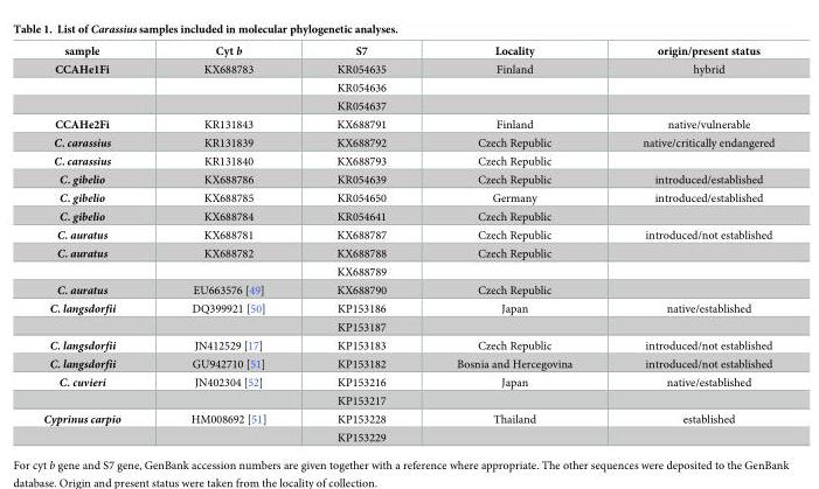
<table><thead><tr><td>sample</td><td>Cyt b</td><td>S7</td><td>Locality</td><td>origin/present status</td></tr></thead><tbody><tr><td rowspan="3">CCAHe1Fi</td><td>KX688783</td><td>KR054635</td><td>Finland</td><td>hybrid</td></tr><tr><td></td><td>KR054636</td><td></td><td></td></tr><tr><td></td><td>KR054637</td><td></td><td></td></tr><tr><td>CCAHe2Fi</td><td>KR131843</td><td>KX688791</td><td>Finland</td><td>native/vulnerable</td></tr><tr><td>C. carassius</td><td>KR131839</td><td>KX688792</td><td>Czech Republic</td><td>native/critically endangered</td></tr><tr><td>C. carassius</td><td>KR131840</td><td>KX688793</td><td>Czech Republic</td><td></td></tr><tr><td>C. gibelio</td><td>KX688786</td><td>KR054639</td><td>Czech Republic</td><td>introduced/established</td></tr><tr><td>C. gibelio</td><td>KX688785</td><td>KR054650</td><td>Germany</td><td>introduced/established</td></tr><tr><td>C. gibelio</td><td>KX688784</td><td>KR054641</td><td>Czech Republic</td><td></td></tr><tr><td>C. auratus</td><td>KX688781</td><td>KX688787</td><td>Czech Republic</td><td>introduced/not established</td></tr><tr><td rowspan="2">C. auratus</td><td>KX688782</td><td>KX688788</td><td>Czech Republic</td><td></td></tr><tr><td></td><td>KX688789</td><td></td><td></td></tr><tr><td>C. auratus</td><td>EU663576 [49]</td><td>KX688790</td><td>Czech Republic</td><td></td></tr><tr><td rowspan="2">C. langsdorfii</td><td>DQ399921 [50]</td><td>KP153186</td><td>Japan</td><td>native/established</td></tr><tr><td></td><td>KP153187</td><td></td><td></td></tr><tr><td>C. langsdorfii</td><td>JN412529 [17]</td><td>KP153183</td><td>Czech Republic</td><td>introduced/not established</td></tr><tr><td>C. langsdorfii</td><td>GU942710 [51]</td><td>KP153182</td><td>Bosnia and Hercegovina</td><td>introduced/not established</td></tr><tr><td rowspan="2">C. cuvieri</td><td>JN402304 [52]</td><td>KP153216</td><td>Japan</td><td>native/established</td></tr><tr><td></td><td>KP153217</td><td></td><td></td></tr><tr><td rowspan="2">Cyprinus carpio</td><td>HM008692 [51]</td><td>KP153228</td><td>Thailand</td><td>established</td></tr><tr><td></td><td>KP153229</td><td></td><td></td></tr></tbody></table>